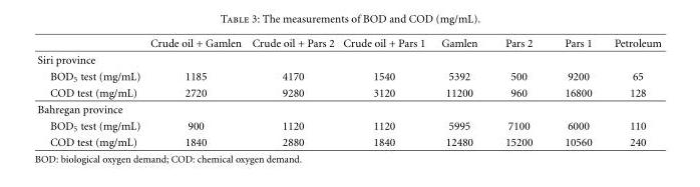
<table><thead><tr><td></td><td>Crude oil + Gamlen</td><td>Crude oil + Pars 2</td><td>Crude oil + Pars 1</td><td>Gamlen</td><td>Pars 2</td><td>Pars 1</td><td>Petroleum</td></tr></thead><tbody><tr><td colspan="8">Siri province</td></tr><tr><td>BOD<sub>5</sub> test (mg/mL)</td><td>1185</td><td>4170</td><td>1540</td><td>5392</td><td>500</td><td>9200</td><td>65</td></tr><tr><td>COD test (mg/mL)</td><td>2720</td><td>9280</td><td>3120</td><td>11200</td><td>960</td><td>16800</td><td>128</td></tr><tr><td colspan="8">Bahregan province</td></tr><tr><td>BOD<sub>5</sub> test (mg/mL)</td><td>900</td><td>1120</td><td>1120</td><td>5995</td><td>7100</td><td>6000</td><td>110</td></tr><tr><td>COD test (mg/mL)</td><td>1840</td><td>2880</td><td>1840</td><td>12480</td><td>15200</td><td>10560</td><td>240</td></tr></tbody></table>